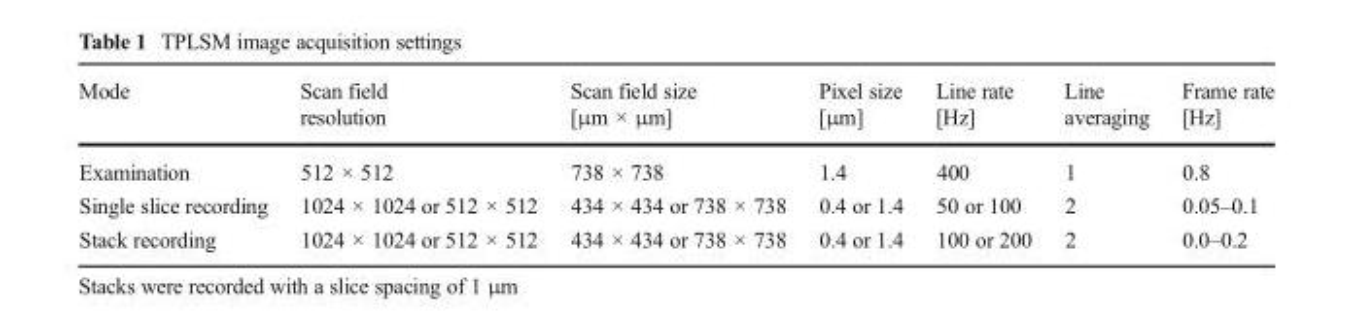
<table><thead><tr><td>Mode</td><td>Scan field resolution</td><td>Scan field size [μm × μm]</td><td>Pixel size [μm]</td><td>Line rate [Hz]</td><td>Line averaging</td><td>Frame rate [Hz]</td></tr></thead><tbody><tr><td>Examination</td><td>512 × 512</td><td>738 × 738</td><td>1.4</td><td>400</td><td>1</td><td>0.8</td></tr><tr><td>Single slice recording</td><td>1024 × 1024 or 512 × 512</td><td>434 × 434 or 738 × 738</td><td>0.4 or 1.4</td><td>50 or 100</td><td>2</td><td>0.05–0.1</td></tr><tr><td>Stack recording</td><td>1024 × 1024 or 512 × 512</td><td>434 × 434 or 738 × 738</td><td>0.4 or 1.4</td><td>100 or 200</td><td>2</td><td>0.0–0.2</td></tr></tbody></table>